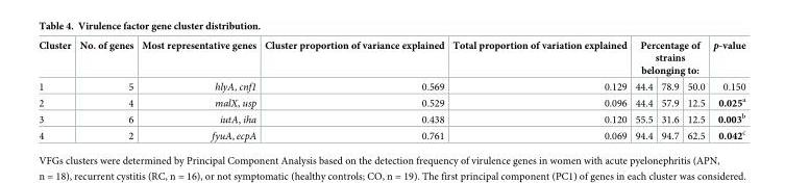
<table><thead><tr><td rowspan="2">Cluster 1</td><td rowspan="2">No. of genes 5</td><td rowspan="2">Most representative genes hlyA, cnf1</td><td rowspan="2">Cluster proportion of variance explained 0.569</td><td rowspan="2">Total proportion of variation explained 0.129</td><td colspan="3">Percentage of strains belonging to:</td><td rowspan="2">p-value 0.150</td></tr><tr><td>44.4</td><td>78.9</td><td>50.0</td></tr></thead><tbody><tr><td>2</td><td>4</td><td>malX, usp</td><td>0.529</td><td>0.096</td><td>44.4</td><td>57.9</td><td>12.5</td><td>0.025<sup>a</sup></td></tr><tr><td>3</td><td>6</td><td>iutA, iha</td><td>0.438</td><td>0.120</td><td>55.5</td><td>31.6</td><td>12.5</td><td>0.003<sup>b</sup></td></tr><tr><td>4</td><td>2</td><td>fyuA, ecpA</td><td>0.761</td><td>0.069</td><td>94.4</td><td>94.7</td><td>62.5</td><td>0.042<sup>c</sup></td></tr></tbody></table>